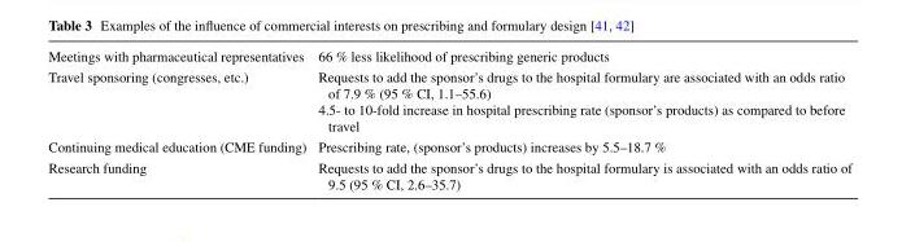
<table><tbody><tr><td>Meetings with pharmaceutical representatives</td><td>66 % less likelihood of prescribing generic products</td></tr><tr><td>Travel sponsoring (congresses, etc.)</td><td>Requests to add the sponsor’s drugs to the hospital formulary are associated with an odds ratio of 7.9 % (95 % CI, 1.1–55.6) 4.5- to 10-fold increase in hospital prescribing rate (sponsor’s products) as compared to before travel</td></tr><tr><td>Continuing medical education (CME funding)</td><td>Prescribing rate, (sponsor’s products) increases by 5.5–18.7 %</td></tr><tr><td>Research funding</td><td>Requests to add the sponsor’s drugs to the hospital formulary is associated with an odds ratio of 9.5 (95 % CI, 2.6–35.7)</td></tr></tbody></table>